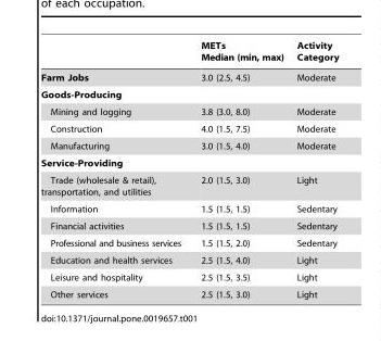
<table><thead><tr><td></td><td>METs Median (min, max)</td><td>Activity Category</td></tr></thead><tbody><tr><td>Farm Jobs</td><td>3.0 (2.5, 4.5)</td><td>Moderate</td></tr><tr><td colspan="3">Goods-Producing</td></tr><tr><td>Mining and logging</td><td>3.8 (3.0, 8.0)</td><td>Moderate</td></tr><tr><td>Construction</td><td>4.0 (1.5, 7.5)</td><td>Moderate</td></tr><tr><td>Manufacturing</td><td>3.0 (1.5, 4.0)</td><td>Moderate</td></tr><tr><td colspan="3">Service-Providing</td></tr><tr><td>Trade (wholesale &amp; retail), transportation, and utilities</td><td>2.0 (1.5, 3.0)</td><td>Light</td></tr><tr><td>Information</td><td>1.5 (1.5, 1.5)</td><td>Sedentary</td></tr><tr><td>Financial activities</td><td>1.5 (1.5, 1.5)</td><td>Sedentary</td></tr><tr><td>Professional and business services</td><td>1.5 (1.5, 2.0)</td><td>Sedentary</td></tr><tr><td>Education and health services</td><td>2.5 (1.5, 4.0)</td><td>Light</td></tr><tr><td>Leisure and hospitality</td><td>2.5 (1.5, 3.5)</td><td>Light</td></tr><tr><td>Other services</td><td>2.5 (1.5, 3.0)</td><td>Light</td></tr></tbody></table>